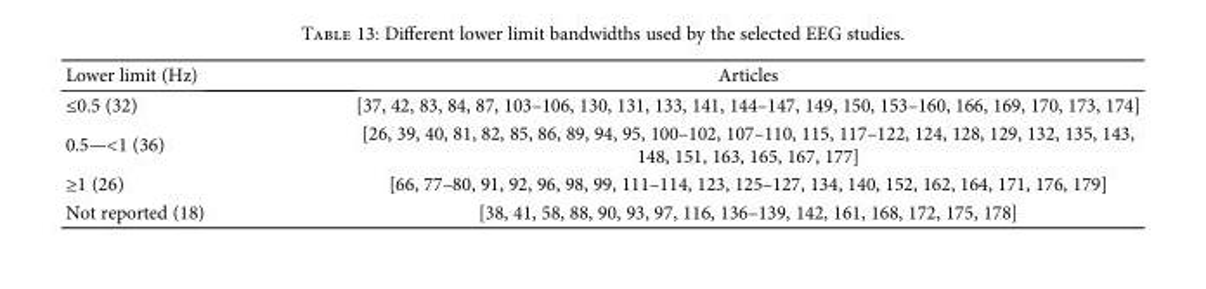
<table><thead><tr><td>Lower limit (Hz)</td><td>Articles</td></tr></thead><tbody><tr><td>≤0.5 (32)</td><td>[37, 42, 83, 84, 87, 103–106, 130, 131, 133, 141, 144–147, 149, 150, 153–160, 166, 169, 170, 173, 174]</td></tr><tr><td>0.5—&lt;1 (36)</td><td>[26, 39, 40, 81, 82, 85, 86, 89, 94, 95, 100–102, 107–110, 115, 117–122, 124, 128, 129, 132, 135, 143, 148, 151, 163, 165, 167, 177]</td></tr><tr><td>≥1 (26)</td><td>[66, 77–80, 91, 92, 96, 98, 99, 111–114, 123, 125–127, 134, 140, 152, 162, 164, 171, 176, 179]</td></tr><tr><td>Not reported (18)</td><td>[38, 41, 58, 88, 90, 93, 97, 116, 136–139, 142, 161, 168, 172, 175, 178]</td></tr></tbody></table>